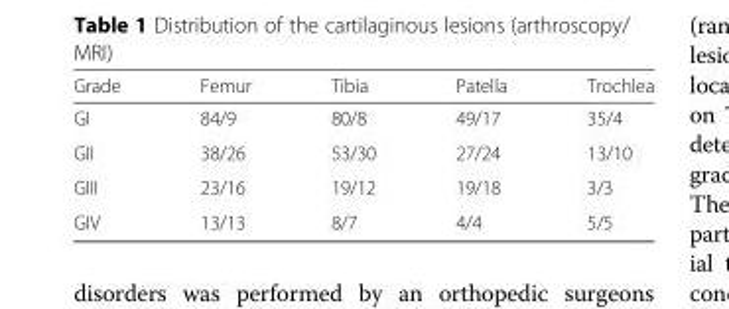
<table><thead><tr><td>Grade</td><td>Femur</td><td>Tibia</td><td>Patella</td><td>Trochlea</td></tr></thead><tbody><tr><td>GI</td><td>84/9</td><td>80/8</td><td>49/17</td><td>35/4</td></tr><tr><td>GII</td><td>38/26</td><td>53/30</td><td>27/24</td><td>13/10</td></tr><tr><td>GIII</td><td>23/16</td><td>19/12</td><td>19/18</td><td>3/3</td></tr><tr><td>GIV</td><td>13/13</td><td>8/7</td><td>4/4</td><td>5/5</td></tr></tbody></table>